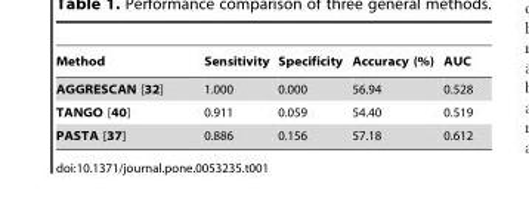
<table><thead><tr><td>Method</td><td>Sensitivity</td><td>Specificity</td><td>Accuracy (%)</td><td>AUC</td></tr></thead><tbody><tr><td>AGGRESCAN [32]</td><td>1.000</td><td>0.000</td><td>56.94</td><td>0.528</td></tr><tr><td>TANGO [40]</td><td>0.911</td><td>0.059</td><td>54.40</td><td>0.519</td></tr><tr><td>PASTA [37]</td><td>0.886</td><td>0.156</td><td>57.18</td><td>0.612</td></tr></tbody></table>